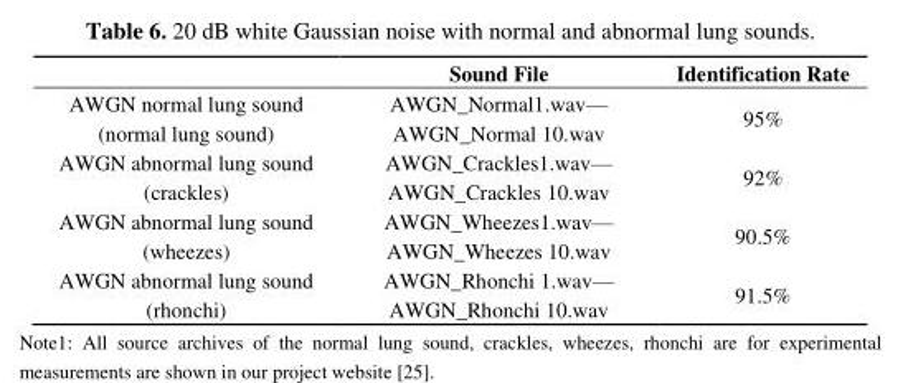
<table><thead><tr><td></td><td>Sound File</td><td>Identification Rate</td></tr></thead><tbody><tr><td>AWGN normal lung sound (normal lung sound)</td><td>AWGN_Normal1.wav— AWGN_Normal 10.wav</td><td>95%</td></tr><tr><td>AWGN abnormal lung sound (crackles)</td><td>AWGN_Crackles1.wav— AWGN_Crackles 10.wav</td><td>92%</td></tr><tr><td>AWGN abnormal lung sound (wheezes)</td><td>AWGN_Wheezes1.wav— AWGN_Wheezes 10.wav</td><td>90.5%</td></tr><tr><td>AWGN abnormal lung sound (rhonchi)</td><td>AWGN_Rhonchi 1.wav— AWGN_Rhonchi 10.wav</td><td>91.5%</td></tr></tbody></table>